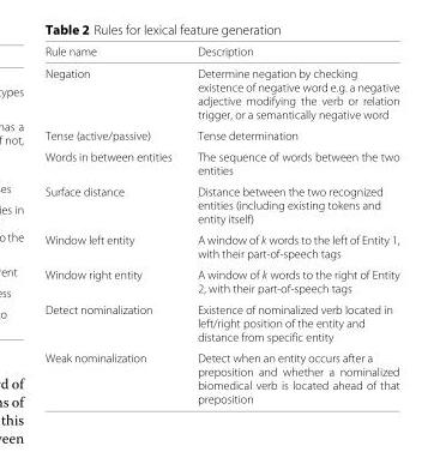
<table><thead><tr><td>Rule name</td><td>Description</td></tr></thead><tbody><tr><td>Negation</td><td>Determine negation by checking existence of negative word e.g. a negative adjective modifying the verb or relation trigger, or a semantically negative word</td></tr><tr><td>Tense (active/passive)</td><td>Tense determination</td></tr><tr><td>Words in between entities</td><td>The sequence of words between the two entities</td></tr><tr><td>Surface distance</td><td>Distance between the two recognized entities (including existing tokens and entity itself)</td></tr><tr><td>Window left entity</td><td>A window of k words to the left of Entity 1, with their part-of-speech tags</td></tr><tr><td>Window right entity</td><td>A window of k words to the right of Entity 2, with their part-of-speech tags</td></tr><tr><td>Detect nominalization</td><td>Existence of nominalized verb located in left/right position of the entity and distance from specific entity</td></tr><tr><td>Weak nominalization</td><td>Detect when an entity occurs after a preposition and whether a nominalized biomedical verb is located ahead of that preposition</td></tr></tbody></table>